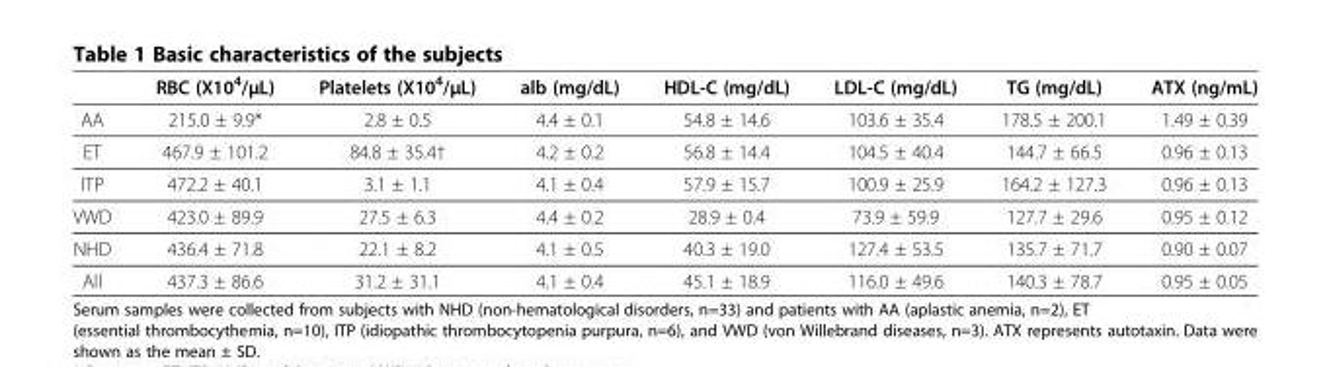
<table><thead><tr><td></td><td>RBC (X10<sup>4</sup>/μL)</td><td>Platelets (X10<sup>4</sup>/μL)</td><td>alb (mg/dL)</td><td>HDL-C (mg/dL)</td><td>LDL-C (mg/dL)</td><td>TG (mg/dL)</td><td>ATX (ng/mL)</td></tr></thead><tbody><tr><td>AA</td><td>215.0 ± 9.9*</td><td>2.8 ± 0.5</td><td>4.4 ± 0.1</td><td>54.8 ± 14.6</td><td>103.6 ± 35.4</td><td>178.5 ± 200.1</td><td>1.49 ± 0.39</td></tr><tr><td>ET</td><td>467.9 ± 101.2</td><td>84.8 ± 35.4†</td><td>4.2 ± 0.2</td><td>56.8 ± 14.4</td><td>104.5 ± 40.4</td><td>144.7 ± 66.5</td><td>0.96 ± 0.13</td></tr><tr><td>ITP</td><td>472.2 ± 40.1</td><td>3.1 ± 1.1</td><td>4.1 ± 0.4</td><td>57.9 ± 15.7</td><td>100.9 ± 25.9</td><td>164.2 ± 127.3</td><td>0.96 ± 0.13</td></tr><tr><td>VWD</td><td>423.0 ± 89.9</td><td>27.5 ± 6.3</td><td>4.4 ± 0.2</td><td>28.9 ± 0.4</td><td>73.9 ± 59.9</td><td>127.7 ± 29.6</td><td>0.95 ± 0.12</td></tr><tr><td>NHD</td><td>436.4 ± 71.8</td><td>22.1 ± 8.2</td><td>4.1 ± 0.5</td><td>40.3 ± 19.0</td><td>127.4 ± 53.5</td><td>135.7 ± 71.7</td><td>0.90 ± 0.07</td></tr><tr><td>All</td><td>437.3 ± 86.6</td><td>31.2 ± 31.1</td><td>4.1 ± 0.4</td><td>45.1 ± 18.9</td><td>116.0 ± 49.6</td><td>140.3 ± 78.7</td><td>0.95 ± 0.05</td></tr></tbody></table>